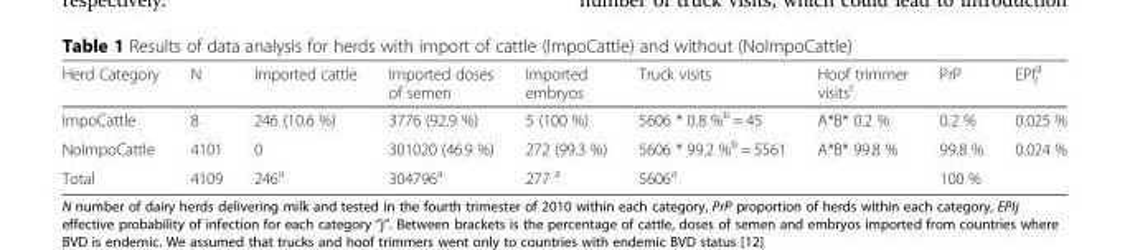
<table><thead><tr><td>Herd Category</td><td>N</td><td>Imported cattle</td><td>Imported doses of semen</td><td>Imported embryos</td><td>Truck visits</td><td>Hoof trimmer visits<sup>c</sup></td><td>PrP</td><td>EPI<sub>j</sub> <sup>d</sup></td></tr></thead><tbody><tr><td>ImpoCattle</td><td>8</td><td>246 (10.6 %)</td><td>3776 (92.9 %)</td><td>5 (100 %)</td><td>5606 * 0.8 %<sup>b</sup> = 45</td><td>A*B* 0.2 %</td><td>0.2 %</td><td>0.025 %</td></tr><tr><td>NoImpoCattle</td><td>4101</td><td>0</td><td>301020 (46.9 %)</td><td>272 (99.3 %)</td><td>5606 * 99.2 %<sup>b</sup> = 5561</td><td>A*B* 99.8 %</td><td>99.8 %</td><td>0.024 %</td></tr><tr><td>Total</td><td>4109</td><td>246<sup>a</sup></td><td>304796<sup>a</sup></td><td>277 <sup>a</sup></td><td>5606<sup>a</sup></td><td></td><td>100 %</td><td></td></tr></tbody></table>